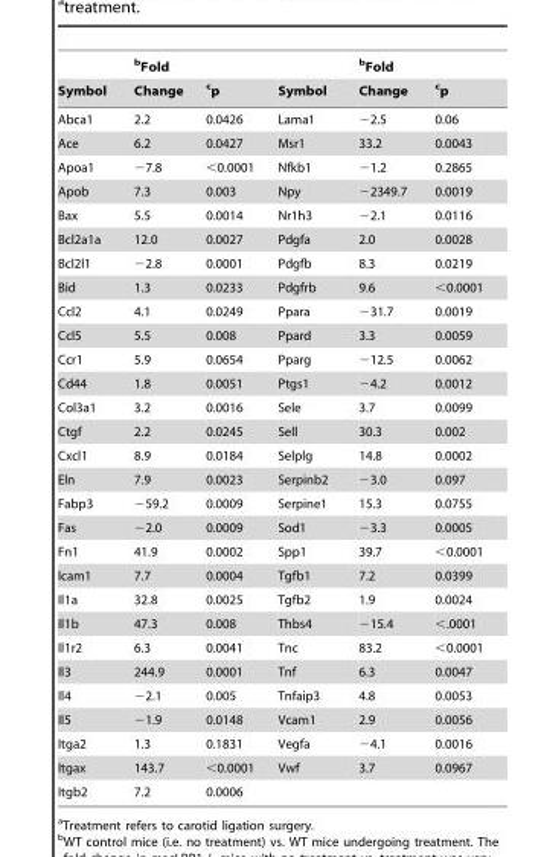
<table><thead><tr><td rowspan="2">Symbol</td><td rowspan="2">bFold Change</td><td rowspan="2">cp</td><td rowspan="2">Symbol</td><td rowspan="2">bFold Change</td><td rowspan="2">cp</td></tr><tr></tr></thead><tbody><tr><td>Abca1</td><td>2.2</td><td>0.0426</td><td>Lama1</td><td>−2.5</td><td>0.06</td></tr><tr><td>Ace</td><td>6.2</td><td>0.0427</td><td>Msr1</td><td>33.2</td><td>0.0043</td></tr><tr><td>Apoa1</td><td>−7.8</td><td>&lt;0.0001</td><td>Nfkb1</td><td>−1.2</td><td>0.2865</td></tr><tr><td>Apob</td><td>7.3</td><td>0.003</td><td>Npy</td><td>−2349.7</td><td>0.0019</td></tr><tr><td>Bax</td><td>5.5</td><td>0.0014</td><td>Nr1h3</td><td>−2.1</td><td>0.0116</td></tr><tr><td>Bcl2a1a</td><td>12.0</td><td>0.0027</td><td>Pdgfa</td><td>2.0</td><td>0.0028</td></tr><tr><td>Bcl2l1</td><td>−2.8</td><td>0.0001</td><td>Pdgfb</td><td>8.3</td><td>0.0219</td></tr><tr><td>Bid</td><td>1.3</td><td>0.0233</td><td>Pdgfrb</td><td>9.6</td><td>&lt;0.0001</td></tr><tr><td>Ccl2</td><td>4.1</td><td>0.0249</td><td>Ppara</td><td>−31.7</td><td>0.0019</td></tr><tr><td>Ccl5</td><td>5.5</td><td>0.008</td><td>Ppard</td><td>3.3</td><td>0.0059</td></tr><tr><td>Ccr1</td><td>5.9</td><td>0.0654</td><td>Pparg</td><td>−12.5</td><td>0.0062</td></tr><tr><td>Cd44</td><td>1.8</td><td>0.0051</td><td>Ptgs1</td><td>−4.2</td><td>0.0012</td></tr><tr><td>Col3a1</td><td>3.2</td><td>0.0016</td><td>Sele</td><td>3.7</td><td>0.0099</td></tr><tr><td>Ctgf</td><td>2.2</td><td>0.0245</td><td>Sell</td><td>30.3</td><td>0.002</td></tr><tr><td>Cxcl1</td><td>8.9</td><td>0.0184</td><td>Selplg</td><td>14.8</td><td>0.0002</td></tr><tr><td>Eln</td><td>7.9</td><td>0.0023</td><td>Serpinb2</td><td>−3.0</td><td>0.097</td></tr><tr><td>Fabp3</td><td>−59.2</td><td>0.0009</td><td>Serpine1</td><td>15.3</td><td>0.0755</td></tr><tr><td>Fas</td><td>−2.0</td><td>0.0009</td><td>Sod1</td><td>−3.3</td><td>0.0005</td></tr><tr><td>Fn1</td><td>41.9</td><td>0.0002</td><td>Spp1</td><td>39.7</td><td>&lt;0.0001</td></tr><tr><td>Icam1</td><td>7.7</td><td>0.0004</td><td>Tgfb1</td><td>7.2</td><td>0.0399</td></tr><tr><td>Il1a</td><td>32.8</td><td>0.0025</td><td>Tgfb2</td><td>1.9</td><td>0.0024</td></tr><tr><td>Il1b</td><td>47.3</td><td>0.008</td><td>Thbs4</td><td>−15.4</td><td>&lt;.0001</td></tr><tr><td>Il1r2</td><td>6.3</td><td>0.0041</td><td>Tnc</td><td>83.2</td><td>&lt;0.0001</td></tr><tr><td>Il3</td><td>244.9</td><td>0.0001</td><td>Tnf</td><td>6.3</td><td>0.0047</td></tr><tr><td>Il4</td><td>−2.1</td><td>0.005</td><td>Tnfaip3</td><td>4.8</td><td>0.0053</td></tr><tr><td>Il5</td><td>−1.9</td><td>0.0148</td><td>Vcam1</td><td>2.9</td><td>0.0056</td></tr><tr><td>Itga2</td><td>1.3</td><td>0.1831</td><td>Vegfa</td><td>−4.1</td><td>0.0016</td></tr><tr><td>Itgax</td><td>143.7</td><td>&lt;0.0001</td><td>Vwf</td><td>3.7</td><td>0.0967</td></tr><tr><td>Itgb2</td><td>7.2</td><td>0.0006</td><td></td><td></td><td></td></tr></tbody></table>